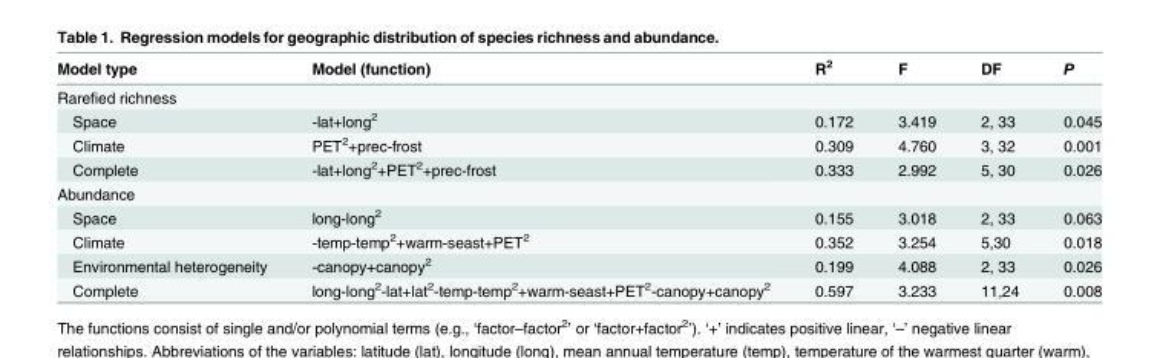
<table><thead><tr><td>Model type</td><td>Model (function)</td><td>R<sup>2</sup></td><td>F</td><td>DF</td><td>P</td></tr></thead><tbody><tr><td colspan="6">Rarefied richness</td></tr><tr><td>Space</td><td>-lat+long<sup>2</sup></td><td>0.172</td><td>3.419</td><td>2, 33</td><td>0.045</td></tr><tr><td>Climate</td><td>PET<sup>2</sup>+prec-frost</td><td>0.309</td><td>4.760</td><td>3, 32</td><td>0.001</td></tr><tr><td>Complete</td><td>-lat+long<sup>2</sup>+PET<sup>2</sup>+prec-frost</td><td>0.333</td><td>2.992</td><td>5, 30</td><td>0.026</td></tr><tr><td colspan="6">Abundance</td></tr><tr><td>Space</td><td>long-long<sup>2</sup></td><td>0.155</td><td>3.018</td><td>2, 33</td><td>0.063</td></tr><tr><td>Climate</td><td>-temp-temp<sup>2</sup>+warm-seast+PET<sup>2</sup></td><td>0.352</td><td>3.254</td><td>5,30</td><td>0.018</td></tr><tr><td>Environmental heterogeneity</td><td>-canopy+canopy<sup>2</sup></td><td>0.199</td><td>4.088</td><td>2, 33</td><td>0.026</td></tr><tr><td>Complete</td><td>long-long<sup>2</sup>-lat+lat<sup>2</sup>-temp-temp<sup>2</sup>+warm-seast+PET<sup>2</sup>-canopy+canopy<sup>2</sup></td><td>0.597</td><td>3.233</td><td>11,24</td><td>0.008</td></tr></tbody></table>